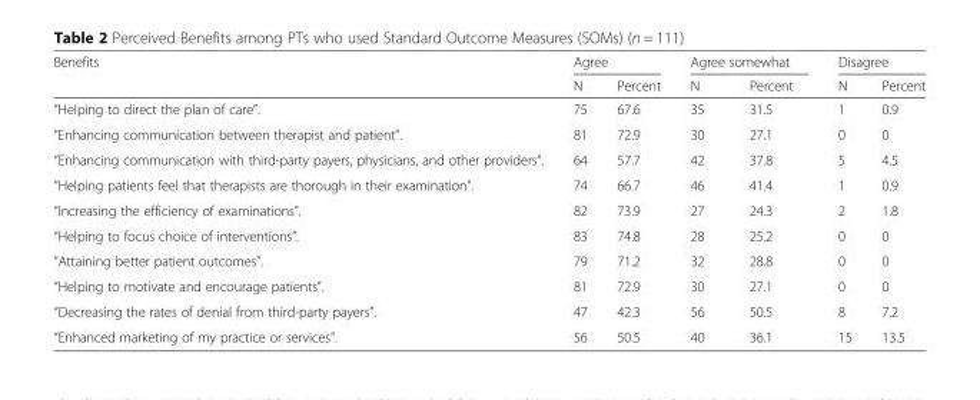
<table><thead><tr><td rowspan="2">Benefits</td><td colspan="2">Agree</td><td colspan="2">Agree somewhat</td><td colspan="2">Disagree</td></tr><tr><td>N</td><td>Percent</td><td>N</td><td>Percent</td><td>N</td><td>Percent</td></tr></thead><tbody><tr><td>“Helping to direct the plan of care”.</td><td>75</td><td>67.6</td><td>35</td><td>31.5</td><td>1</td><td>0.9</td></tr><tr><td>“Enhancing communication between therapist and patient”.</td><td>81</td><td>72.9</td><td>30</td><td>27.1</td><td>0</td><td>0</td></tr><tr><td>“Enhancing communication with third-party payers, physicians, and other providers”.</td><td>64</td><td>57.7</td><td>42</td><td>37.8</td><td>5</td><td>4.5</td></tr><tr><td>“Helping patients feel that therapists are thorough in their examination”.</td><td>74</td><td>66.7</td><td>46</td><td>41.4</td><td>1</td><td>0.9</td></tr><tr><td>“Increasing the efficiency of examinations”.</td><td>82</td><td>73.9</td><td>27</td><td>24.3</td><td>2</td><td>1.8</td></tr><tr><td>“Helping to focus choice of interventions”.</td><td>83</td><td>74.8</td><td>28</td><td>25.2</td><td>0</td><td>0</td></tr><tr><td>“Attaining better patient outcomes”.</td><td>79</td><td>71.2</td><td>32</td><td>28.8</td><td>0</td><td>0</td></tr><tr><td>“Helping to motivate and encourage patients”.</td><td>81</td><td>72.9</td><td>30</td><td>27.1</td><td>0</td><td>0</td></tr><tr><td>“Decreasing the rates of denial from third-party payers”.</td><td>47</td><td>42.3</td><td>56</td><td>50.5</td><td>8</td><td>7.2</td></tr><tr><td>“Enhanced marketing of my practice or services”.</td><td>56</td><td>50.5</td><td>40</td><td>36.1</td><td>15</td><td>13.5</td></tr></tbody></table>